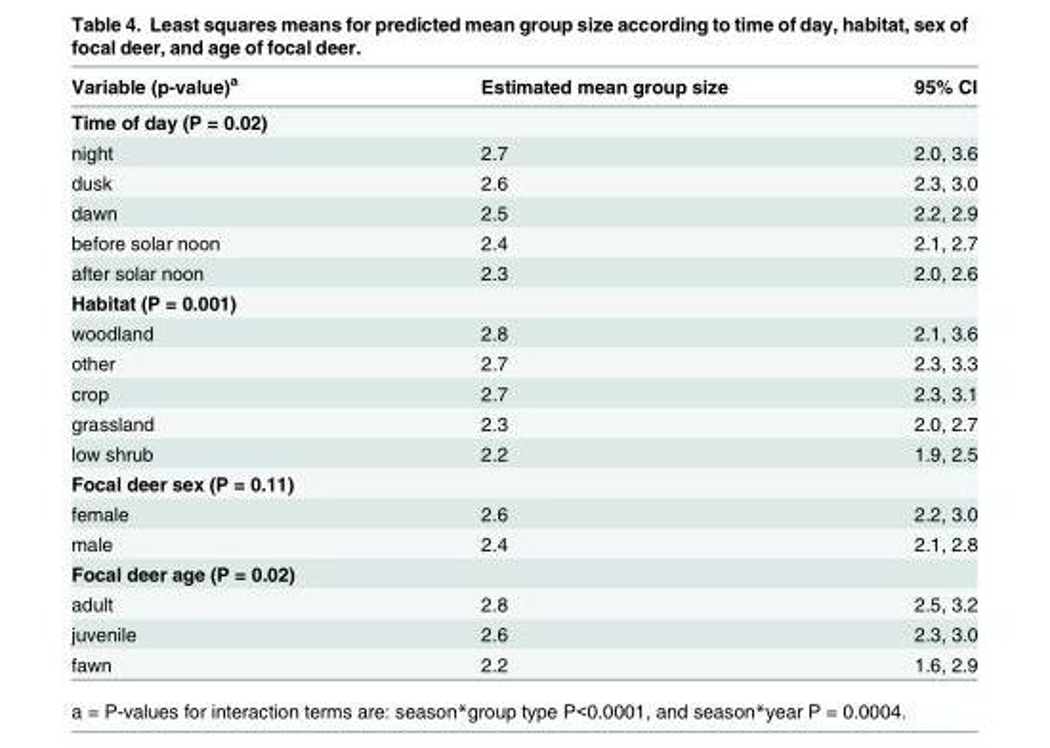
<table><thead><tr><td>Variable (p-value)<sup>a</sup></td><td>Estimated mean group size</td><td>95% CI</td></tr></thead><tbody><tr><td colspan="3">Time of day (P = 0.02)</td></tr><tr><td>night</td><td>2.7</td><td>2.0, 3.6</td></tr><tr><td>dusk</td><td>2.6</td><td>2.3, 3.0</td></tr><tr><td>dawn</td><td>2.5</td><td>2.2, 2.9</td></tr><tr><td>before solar noon</td><td>2.4</td><td>2.1, 2.7</td></tr><tr><td>after solar noon</td><td>2.3</td><td>2.0, 2.6</td></tr><tr><td colspan="3">Habitat (P = 0.001)</td></tr><tr><td>woodland</td><td>2.8</td><td>2.1, 3.6</td></tr><tr><td>other</td><td>2.7</td><td>2.3, 3.3</td></tr><tr><td>crop</td><td>2.7</td><td>2.3, 3.1</td></tr><tr><td>grassland</td><td>2.3</td><td>2.0, 2.7</td></tr><tr><td>low shrub</td><td>2.2</td><td>1.9, 2.5</td></tr><tr><td colspan="3">Focal deer sex (P = 0.11)</td></tr><tr><td>female</td><td>2.6</td><td>2.2, 3.0</td></tr><tr><td>male</td><td>2.4</td><td>2.1, 2.8</td></tr><tr><td colspan="3">Focal deer age (P = 0.02)</td></tr><tr><td>adult</td><td>2.8</td><td>2.5, 3.2</td></tr><tr><td>juvenile</td><td>2.6</td><td>2.3, 3.0</td></tr><tr><td>fawn</td><td>2.2</td><td>1.6, 2.9</td></tr></tbody></table>